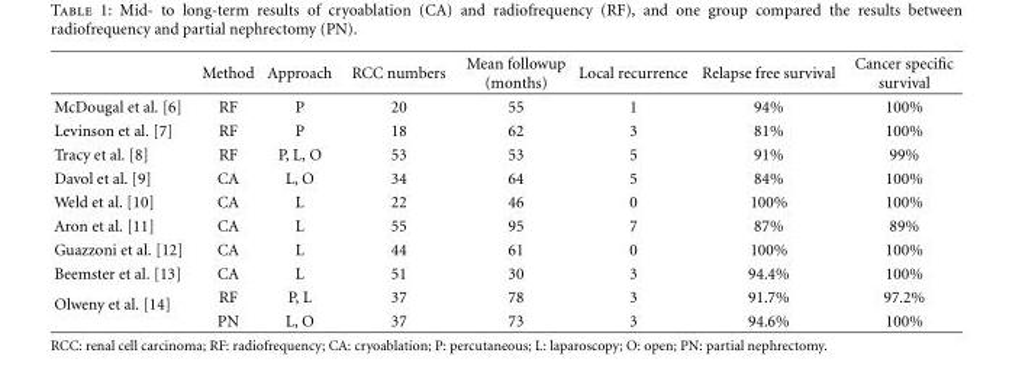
<table><thead><tr><td></td><td>Method</td><td>Approach</td><td>RCC numbers</td><td>Mean followup (months)</td><td>Local recurrence</td><td>Relapse free survival</td><td>Cancer specific survival</td></tr></thead><tbody><tr><td>McDougal et al. [6]</td><td>RF</td><td>P</td><td>20</td><td>55</td><td>1</td><td>94%</td><td>100%</td></tr><tr><td>Levinson et al. [7]</td><td>RF</td><td>P</td><td>18</td><td>62</td><td>3</td><td>81%</td><td>100%</td></tr><tr><td>Tracy et al. [8]</td><td>RF</td><td>P, L, O</td><td>53</td><td>53</td><td>5</td><td>91%</td><td>99%</td></tr><tr><td>Davol et al. [9]</td><td>CA</td><td>L, O</td><td>34</td><td>64</td><td>5</td><td>84%</td><td>100%</td></tr><tr><td>Weld et al. [10]</td><td>CA</td><td>L</td><td>22</td><td>46</td><td>0</td><td>100%</td><td>100%</td></tr><tr><td>Aron et al. [11]</td><td>CA</td><td>L</td><td>55</td><td>95</td><td>7</td><td>87%</td><td>89%</td></tr><tr><td>Guazzoni et al. [12]</td><td>CA</td><td>L</td><td>44</td><td>61</td><td>0</td><td>100%</td><td>100%</td></tr><tr><td>Beemster et al. [13]</td><td>CA</td><td>L</td><td>51</td><td>30</td><td>3</td><td>94.4%</td><td>100%</td></tr><tr><td rowspan="2">Olweny et al. [14]</td><td>RF</td><td>P, L</td><td>37</td><td>78</td><td>3</td><td>91.7%</td><td>97.2%</td></tr><tr><td>PN</td><td>L, O</td><td>37</td><td>73</td><td>3</td><td>94.6%</td><td>100%</td></tr></tbody></table>